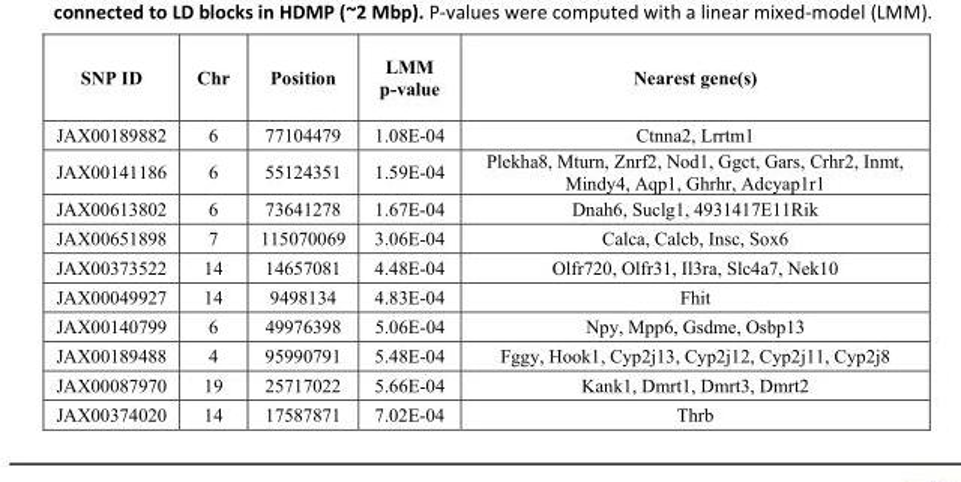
<table><tbody><tr><td>SNP ID</td><td>Chr</td><td>Position</td><td>LMM p-value</td><td>Nearest gene(s)</td></tr><tr><td>JAX00189882</td><td>6</td><td>77104479</td><td>1.08E-04</td><td>Ctnna2, Lrrtm1</td></tr><tr><td>JAX00141186</td><td>6</td><td>55124351</td><td>1.59E-04</td><td>Plekha8, Mturn, Znrf2, Nod1, Ggct, Gars, Crhr2, Inmt, Mindy4, Aqp1, Ghrhr, Adcyap1r1</td></tr><tr><td>JAX00613802</td><td>6</td><td>73641278</td><td>1.67E-04</td><td>Dnah6, Suclg1, 4931417E11Rik</td></tr><tr><td>JAX00651898</td><td>7</td><td>115070069</td><td>3.06E-04</td><td>Calca, Calcb, Insc, Sox6</td></tr><tr><td>JAX00373522</td><td>14</td><td>14657081</td><td>4.48E-04</td><td>Olfr720, Olfr31, Il3ra, Slc4a7, Nek10</td></tr><tr><td>JAX00049927</td><td>14</td><td>9498134</td><td>4.83E-04</td><td>Fhit</td></tr><tr><td>JAX00140799</td><td>6</td><td>49976398</td><td>5.06E-04</td><td>Npy, Mpp6, Gsdme, Osbp13</td></tr><tr><td>JAX00189488</td><td>4</td><td>95990791</td><td>5.48E-04</td><td>Fggy, Hook1, Cyp2j13, Cyp2j12, Cyp2j11, Cyp2j8</td></tr><tr><td>JAX00087970</td><td>19</td><td>25717022</td><td>5.66E-04</td><td>Kank1, Dmrt1, Dmrt3, Dmrt2</td></tr><tr><td>JAX00374020</td><td>14</td><td>17587871</td><td>7.02E-04</td><td>Thrb</td></tr></tbody></table>